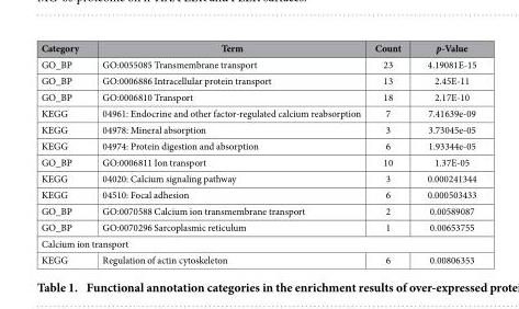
<table><thead><tr><td>Category</td><td>Term</td><td>Count</td><td>p-Value</td></tr></thead><tbody><tr><td>GO_BP</td><td>GO:0055085 Transmembrane transport</td><td>23</td><td>4.19081E-15</td></tr><tr><td>GO_BP</td><td>GO:0006886 Intracellular protein transport</td><td>13</td><td>2.45E-11</td></tr><tr><td>GO_BP</td><td>GO:0006810 Transport</td><td>18</td><td>2.17E-10</td></tr><tr><td>KEGG</td><td>04961: Endocrine and other factor-regulated calcium reabsorption</td><td>7</td><td>7.41639e-09</td></tr><tr><td>KEGG</td><td>04978: Mineral absorption</td><td>3</td><td>3.73045e-05</td></tr><tr><td>KEGG</td><td>04974: Protein digestion and absorption</td><td>6</td><td>1.93344e-05</td></tr><tr><td>GO_BP</td><td>GO:0006811 Ion transport</td><td>10</td><td>1.37E-05</td></tr><tr><td>KEGG</td><td>04020: Calcium signaling pathway</td><td>3</td><td>0.000241344</td></tr><tr><td>KEGG</td><td>04510: Focal adhesion</td><td>6</td><td>0.000503433</td></tr><tr><td>GO_BP</td><td>GO:0070588 Calcium ion transmembrane transport</td><td>2</td><td>0.00589087</td></tr><tr><td>GO_BP</td><td>GO:0070296 Sarcoplasmic reticulum</td><td>1</td><td>0.00653755</td></tr><tr><td colspan="4">Calcium ion transport</td></tr><tr><td>KEGG</td><td>Regulation of actin cytoskeleton</td><td>6</td><td>0.00806353</td></tr></tbody></table>